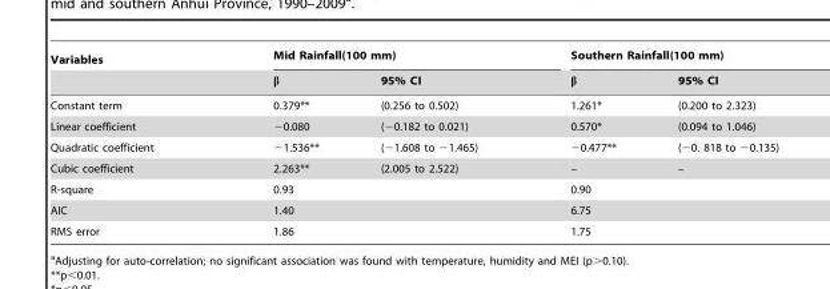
<table><thead><tr><td rowspan="2">Variables</td><td colspan="2">Mid Rainfall(100 mm)</td><td colspan="2">Southern Rainfall(100 mm)</td></tr><tr><td>β</td><td>95% CI</td><td>β</td><td>95% CI</td></tr></thead><tbody><tr><td>Constant term</td><td>0.379**</td><td>(0.256 to 0.502)</td><td>1.261*</td><td>(0.200 to 2.323)</td></tr><tr><td>Linear coefficient</td><td>−0.080</td><td>(−0.182 to 0.021)</td><td>0.570*</td><td>(0.094 to 1.046)</td></tr><tr><td>Quadratic coefficient</td><td>−1.536**</td><td>(−1.608 to −1.465)</td><td>−0.477**</td><td>(−0. 818 to −0.135)</td></tr><tr><td>Cubic coefficient</td><td>2.263**</td><td>(2.005 to 2.522)</td><td>–</td><td>–</td></tr><tr><td>R-square</td><td colspan="2">0.93</td><td colspan="2">0.90</td></tr><tr><td>AIC</td><td colspan="2">1.40</td><td colspan="2">6.75</td></tr><tr><td>RMS error</td><td colspan="2">1.86</td><td colspan="2">1.75</td></tr></tbody></table>